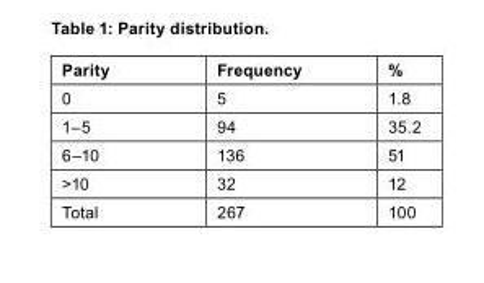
<table><thead><tr><td>Parity</td><td>Frequency</td><td>%</td></tr></thead><tbody><tr><td>0</td><td>5</td><td>1.8</td></tr><tr><td>1–5</td><td>94</td><td>35.2</td></tr><tr><td>6–10</td><td>136</td><td>51</td></tr><tr><td>&gt;10</td><td>32</td><td>12</td></tr><tr><td>Total</td><td>267</td><td>100</td></tr></tbody></table>